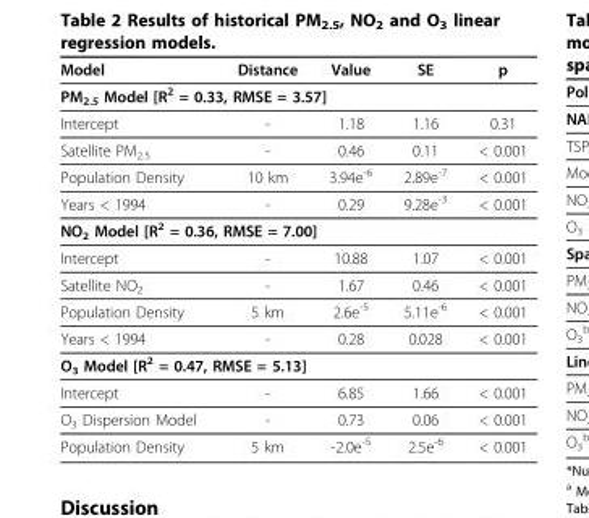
<table><thead><tr><td>Model</td><td>Distance</td><td>Value</td><td>SE</td><td>p</td></tr></thead><tbody><tr><td colspan="5">PM<sub>2.5</sub> Model [R<sup>2</sup> = 0.33, RMSE = 3.57]</td></tr><tr><td>Intercept</td><td>-</td><td>1.18</td><td>1.16</td><td>0.31</td></tr><tr><td>Satellite PM<sub>2.5</sub></td><td>-</td><td>0.46</td><td>0.11</td><td>&lt; 0.001</td></tr><tr><td>Population Density</td><td>10 km</td><td>3.94e<sup>-6</sup></td><td>2.89e<sup>-7</sup></td><td>&lt; 0.001</td></tr><tr><td>Years &lt; 1994</td><td>-</td><td>0.29</td><td>9.28e<sup>-3</sup></td><td>&lt; 0.001</td></tr><tr><td colspan="5">NO<sub>2</sub> Model [R<sup>2</sup> = 0.36, RMSE = 7.00]</td></tr><tr><td>Intercept</td><td>-</td><td>10.88</td><td>1.07</td><td>&lt; 0.001</td></tr><tr><td>Satellite NO<sub>2</sub></td><td>-</td><td>1.67</td><td>0.46</td><td>&lt; 0.001</td></tr><tr><td>Population Density</td><td>5 km</td><td>2.6e<sup>-5</sup></td><td>5.11e<sup>-6</sup></td><td>&lt; 0.001</td></tr><tr><td>Years &lt; 1994</td><td>-</td><td>0.28</td><td>0.028</td><td>&lt; 0.001</td></tr><tr><td colspan="5">O<sub>3</sub> Model [R<sup>2</sup> = 0.47, RMSE = 5.13]</td></tr><tr><td>Intercept</td><td>-</td><td>6.85</td><td>1.66</td><td>&lt; 0.001</td></tr><tr><td>O<sub>3</sub> Dispersion Model</td><td>-</td><td>0.73</td><td>0.06</td><td>&lt; 0.001</td></tr><tr><td>Population Density</td><td>5 km</td><td>-2.0e<sup>-5</sup></td><td>2.5e<sup>-6</sup></td><td>&lt; 0.001</td></tr></tbody></table>